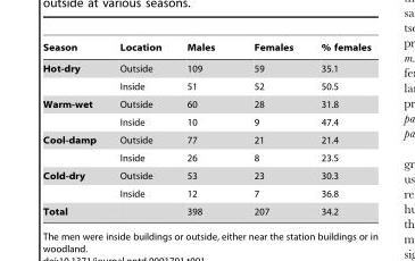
<table><thead><tr><td>Season</td><td>Location</td><td>Males</td><td>Females</td><td>% females</td></tr></thead><tbody><tr><td rowspan="2">Hot-dry</td><td>Outside</td><td>109</td><td>59</td><td>35.1</td></tr><tr><td>Inside</td><td>51</td><td>52</td><td>50.5</td></tr><tr><td rowspan="2">Warm-wet</td><td>Outside</td><td>60</td><td>28</td><td>31.8</td></tr><tr><td>Inside</td><td>10</td><td>9</td><td>47.4</td></tr><tr><td rowspan="2">Cool-damp</td><td>Outside</td><td>77</td><td>21</td><td>21.4</td></tr><tr><td>Inside</td><td>26</td><td>8</td><td>23.5</td></tr><tr><td rowspan="2">Cold-dry</td><td>Outside</td><td>53</td><td>23</td><td>30.3</td></tr><tr><td>Inside</td><td>12</td><td>7</td><td>36.8</td></tr><tr><td>Total</td><td></td><td>398</td><td>207</td><td>34.2</td></tr></tbody></table>